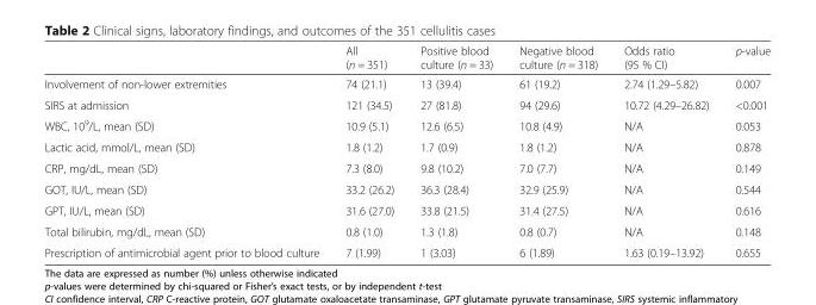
<table><thead><tr><td></td><td>All (n = 351)</td><td>Positive blood culture (n = 33)</td><td>Negative blood culture (n = 318)</td><td>Odds ratio (95 % CI)</td><td>p-value</td></tr></thead><tbody><tr><td>Involvement of non-lower extremities</td><td>74 (21.1)</td><td>13 (39.4)</td><td>61 (19.2)</td><td>2.74 (1.29–5.82)</td><td>0.007</td></tr><tr><td>SIRS at admission</td><td>121 (34.5)</td><td>27 (81.8)</td><td>94 (29.6)</td><td>10.72 (4.29–26.82)</td><td>&lt;0.001</td></tr><tr><td>WBC, 10<sup>9</sup>/L, mean (SD)</td><td>10.9 (5.1)</td><td>12.6 (6.5)</td><td>10.8 (4.9)</td><td>N/A</td><td>0.053</td></tr><tr><td>Lactic acid, mmol/L, mean (SD)</td><td>1.8 (1.2)</td><td>1.7 (0.9)</td><td>1.8 (1.2)</td><td>N/A</td><td>0.878</td></tr><tr><td>CRP, mg/dL, mean (SD)</td><td>7.3 (8.0)</td><td>9.8 (10.2)</td><td>7.0 (7.7)</td><td>N/A</td><td>0.149</td></tr><tr><td>GOT, IU/L, mean (SD)</td><td>33.2 (26.2)</td><td>36.3 (28.4)</td><td>32.9 (25.9)</td><td>N/A</td><td>0.544</td></tr><tr><td>GPT, IU/L, mean (SD)</td><td>31.6 (27.0)</td><td>33.8 (21.5)</td><td>31.4 (27.5)</td><td>N/A</td><td>0.616</td></tr><tr><td>Total bilirubin, mg/dL, mean (SD)</td><td>0.8 (1.0)</td><td>1.3 (1.8)</td><td>0.8 (0.7)</td><td>N/A</td><td>0.148</td></tr><tr><td>Prescription of antimicrobial agent prior to blood culture</td><td>7 (1.99)</td><td>1 (3.03)</td><td>6 (1.89)</td><td>1.63 (0.19–13.92)</td><td>0.655</td></tr></tbody></table>